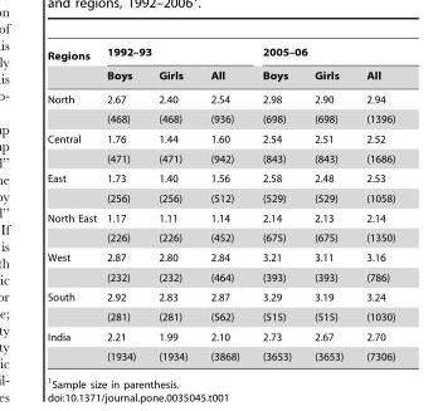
<table><thead><tr><td rowspan="2">Regions</td><td colspan="3">1992–93</td><td colspan="3">2005–06</td></tr><tr><td>Boys</td><td>Girls</td><td>All</td><td>Boys</td><td>Girls</td><td>All</td></tr></thead><tbody><tr><td rowspan="2">North</td><td>2.67</td><td>2.40</td><td>2.54</td><td>2.98</td><td>2.90</td><td>2.94</td></tr><tr><td>(468)</td><td>(468)</td><td>(936)</td><td>(698)</td><td>(698)</td><td>(1396)</td></tr><tr><td rowspan="2">Central</td><td>1.76</td><td>1.44</td><td>1.60</td><td>2.54</td><td>2.51</td><td>2.52</td></tr><tr><td>(471)</td><td>(471)</td><td>(942)</td><td>(843)</td><td>(843)</td><td>(1686)</td></tr><tr><td rowspan="2">East</td><td>1.73</td><td>1.40</td><td>1.56</td><td>2.58</td><td>2.48</td><td>2.53</td></tr><tr><td>(256)</td><td>(256)</td><td>(512)</td><td>(529)</td><td>(529)</td><td>(1058)</td></tr><tr><td rowspan="2">North East</td><td>1.17</td><td>1.11</td><td>1.14</td><td>2.14</td><td>2.13</td><td>2.14</td></tr><tr><td>(226)</td><td>(226)</td><td>(452)</td><td>(675)</td><td>(675)</td><td>(1350)</td></tr><tr><td rowspan="2">West</td><td>2.87</td><td>2.80</td><td>2.84</td><td>3.21</td><td>3.11</td><td>3.16</td></tr><tr><td>(232)</td><td>(232)</td><td>(464)</td><td>(393)</td><td>(393)</td><td>(786)</td></tr><tr><td rowspan="2">South</td><td>2.92</td><td>2.83</td><td>2.87</td><td>3.29</td><td>3.19</td><td>3.24</td></tr><tr><td>(281)</td><td>(281)</td><td>(562)</td><td>(515)</td><td>(515)</td><td>(1030)</td></tr><tr><td rowspan="2">India</td><td>2.21</td><td>1.99</td><td>2.10</td><td>2.73</td><td>2.67</td><td>2.70</td></tr><tr><td>(1934)</td><td>(1934)</td><td>(3868)</td><td>(3653)</td><td>(3653)</td><td>(7306)</td></tr></tbody></table>